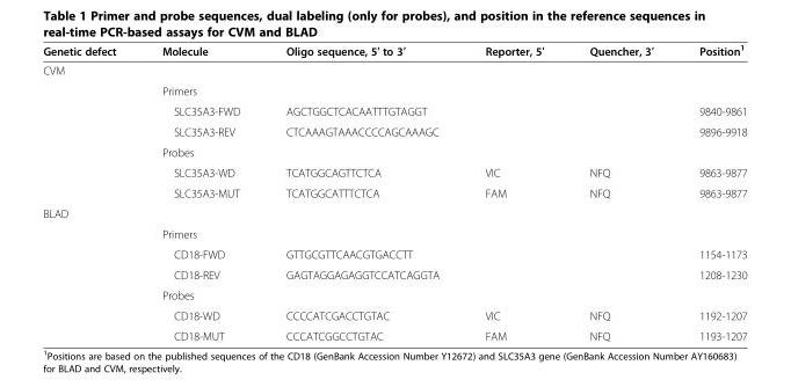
<table><thead><tr><td>Genetic defect</td><td>Molecule</td><td>Oligo sequence, 5′ to 3′</td><td>Reporter, 5′</td><td>Quencher, 3′</td><td>Position<sup>1</sup></td></tr></thead><tbody><tr><td colspan="6">CVM</td></tr><tr><td></td><td>Primers</td><td></td><td></td><td></td><td></td></tr><tr><td></td><td>SLC35A3-FWD</td><td>AGCTGGCTCACAATTTGTAGGT</td><td></td><td></td><td>9840-9861</td></tr><tr><td></td><td>SLC35A3-REV</td><td>CTCAAAGTAAACCCCAGCAAAGC</td><td></td><td></td><td>9896-9918</td></tr><tr><td></td><td>Probes</td><td></td><td></td><td></td><td></td></tr><tr><td></td><td>SLC35A3-WD</td><td>TCATGGCAGTTCTCA</td><td>VIC</td><td>NFQ</td><td>9863-9877</td></tr><tr><td></td><td>SLC35A3-MUT</td><td>TCATGGCATTTCTCA</td><td>FAM</td><td>NFQ</td><td>9863-9877</td></tr><tr><td colspan="6">BLAD</td></tr><tr><td></td><td>Primers</td><td></td><td></td><td></td><td></td></tr><tr><td></td><td>CD18-FWD</td><td>GTTGCGTTCAACGTGACCTT</td><td></td><td></td><td>1154-1173</td></tr><tr><td></td><td>CD18-REV</td><td>GAGTAGGAGAGGTCCATCAGGTA</td><td></td><td></td><td>1208-1230</td></tr><tr><td></td><td>Probes</td><td></td><td></td><td></td><td></td></tr><tr><td></td><td>CD18-WD</td><td>CCCCATCGACCTGTAC</td><td>VIC</td><td>NFQ</td><td>1192-1207</td></tr><tr><td></td><td>CD18-MUT</td><td>CCCATCGGCCTGTAC</td><td>FAM</td><td>NFQ</td><td>1193-1207</td></tr></tbody></table>